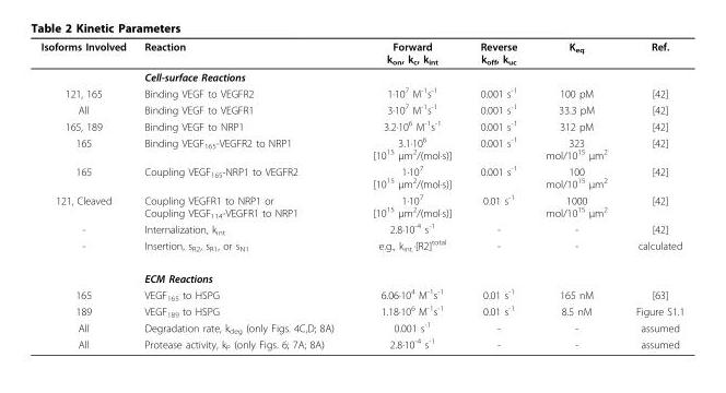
<table><thead><tr><td>Isoforms Involved</td><td>Reaction</td><td>Forward k<sub>on</sub>, k<sub>c</sub>, k<sub>int</sub></td><td>Reverse k<sub>off</sub>, k<sub>uc</sub></td><td>K<sub>eq</sub></td><td>Ref.</td></tr></thead><tbody><tr><td></td><td>Cell-surface Reactions</td><td></td><td></td><td></td><td></td></tr><tr><td>121, 165</td><td>Binding VEGF to VEGFR2</td><td>1·10<sup>7</sup> M<sup>-1</sup>s<sup>-1</sup></td><td>0.001 s<sup>-1</sup></td><td>100 pM</td><td>[42]</td></tr><tr><td>All</td><td>Binding VEGF to VEGFR1</td><td>3·10<sup>7</sup> M<sup>-1</sup>s<sup>-1</sup></td><td>0.001 s<sup>-1</sup></td><td>33.3 pM</td><td>[42]</td></tr><tr><td>165, 189</td><td>Binding VEGF to NRP1</td><td>3.2·10<sup>6</sup> M<sup>-1</sup>s<sup>-1</sup></td><td>0.001 s<sup>-1</sup></td><td>312 pM</td><td>[42]</td></tr><tr><td>165</td><td>Binding VEGF<sub>165</sub>-VEGFR2 to NRP1</td><td>3.1·10<sup>6</sup> [10<sup>15</sup> μm<sup>2</sup>/(mol·s)]</td><td>0.001 s<sup>-1</sup></td><td>323 mol/10<sup>15</sup> μm<sup>2</sup></td><td>[42]</td></tr><tr><td>165</td><td>Coupling VEGF<sub>165</sub>-NRP1 to VEGFR2</td><td>1·10<sup>7</sup> [10<sup>15</sup> μm<sup>2</sup>/(mol·s)]</td><td>0.001 s<sup>-1</sup></td><td>100 mol/10<sup>15</sup> μm<sup>2</sup></td><td>[42]</td></tr><tr><td>121, Cleaved</td><td>Coupling VEGFR1 to NRP1 or Coupling VEGF<sub>114</sub>-VEGFR1 to NRP1</td><td>1·10<sup>7</sup> [10<sup>15</sup> μm<sup>2</sup>/(mol·s)]</td><td>0.01 s<sup>-1</sup></td><td>1000 mol/10<sup>15</sup> μm<sup>2</sup></td><td>[42]</td></tr><tr><td>-</td><td>Internalization, k<sub>int</sub></td><td>2.8·10<sup>-4</sup> s<sup>-1</sup></td><td>-</td><td>-</td><td>[42]</td></tr><tr><td rowspan="2">-</td><td>Insertion, s<sub>R2</sub>, s<sub>R1</sub>, or s<sub>N1</sub></td><td>e.g., k<sub>int.</sub>·[R2]<sup>total</sup></td><td>-</td><td>-</td><td>calculated</td></tr><tr><td>ECM Reactions</td><td></td><td></td><td></td><td></td></tr><tr><td>165</td><td>VEGF<sub>165</sub> to HSPG</td><td>6.06·10<sup>4</sup> M<sup>-1</sup>s<sup>-1</sup></td><td>0.01 s<sup>-1</sup></td><td>165 nM</td><td>[63]</td></tr><tr><td>189</td><td>VEGF<sub>189</sub> to HSPG</td><td>1.18·10<sup>6</sup> M<sup>-1</sup>s<sup>-1</sup></td><td>0.01 s<sup>-1</sup></td><td>8.5 nM</td><td>Figure S1.1</td></tr><tr><td>All</td><td>Degradation rate, k<sub>deg</sub> (only Figs. 4C,D; 8A)</td><td>0.001 s<sup>-1</sup></td><td>-</td><td>-</td><td>assumed</td></tr><tr><td>All</td><td>Protease activity, k<sub>P</sub> (only Figs. 6; 7A; 8A)</td><td>2.8·10<sup>-4</sup> s<sup>-1</sup></td><td>-</td><td>-</td><td>assumed</td></tr></tbody></table>